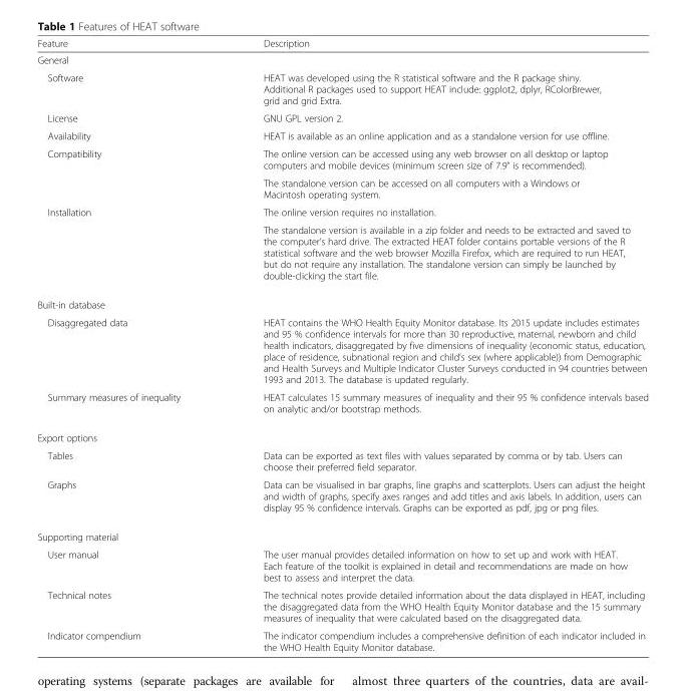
<table><thead><tr><td>Feature</td><td>Description</td></tr></thead><tbody><tr><td colspan="2">General</td></tr><tr><td>Software</td><td>HEAT was developed using the R statistical software and the R package shiny. Additional R packages used to support HEAT include: ggplot2, dplyr, RColorBrewer, grid and grid Extra.</td></tr><tr><td>License</td><td>GNU GPL version 2.</td></tr><tr><td>Availability</td><td>HEAT is available as an online application and as a standalone version for use offline.</td></tr><tr><td rowspan="2">Compatibility</td><td>The online version can be accessed using any web browser on all desktop or laptop computers and mobile devices (minimum screen size of 7.9” is recommended).</td></tr><tr><td>The standalone version can be accessed on all computers with a Windows or Macintosh operating system.</td></tr><tr><td rowspan="2">Installation</td><td>The online version requires no installation.</td></tr><tr><td>The standalone version is available in a zip folder and needs to be extracted and saved to the computer’s hard drive. The extracted HEAT folder contains portable versions of the R statistical software and the web browser Mozilla Firefox, which are required to run HEAT, but do not require any installation. The standalone version can simply be launched by double-clicking the start file.</td></tr><tr><td colspan="2">Built-in database</td></tr><tr><td>Disaggregated data</td><td>HEAT contains the WHO Health Equity Monitor database. Its 2015 update includes estimates and 95 % confidence intervals for more than 30 reproductive, maternal, newborn and child health indicators, disaggregated by five dimensions of inequality (economic status, education, place of residence, subnational region and child’s sex (where applicable)) from Demographic and Health Surveys and Multiple Indicator Cluster Surveys conducted in 94 countries between 1993 and 2013. The database is updated regularly.</td></tr><tr><td>Summary measures of inequality</td><td>HEAT calculates 15 summary measures of inequality and their 95 % confidence intervals based on analytic and/or bootstrap methods.</td></tr><tr><td colspan="2">Export options</td></tr><tr><td>Tables</td><td>Data can be exported as text files with values separated by comma or by tab. Users can choose their preferred field separator.</td></tr><tr><td>Graphs</td><td>Data can be visualised in bar graphs, line graphs and scatterplots. Users can adjust the height and width of graphs, specify axes ranges and add titles and axis labels. In addition, users can display 95 % confidence intervals. Graphs can be exported as pdf, jpg or png files.</td></tr><tr><td colspan="2">Supporting material</td></tr><tr><td>User manual</td><td>The user manual provides detailed information on how to set up and work with HEAT. Each feature of the toolkit is explained in detail and recommendations are made on how best to assess and interpret the data.</td></tr><tr><td>Technical notes</td><td>The technical notes provide detailed information about the data displayed in HEAT, including the disaggregated data from the WHO Health Equity Monitor database and the 15 summary measures of inequality that were calculated based on the disaggregated data.</td></tr><tr><td>Indicator compendium</td><td>The indicator compendium includes a comprehensive definition of each indicator included in the WHO Health Equity Monitor database.</td></tr></tbody></table>